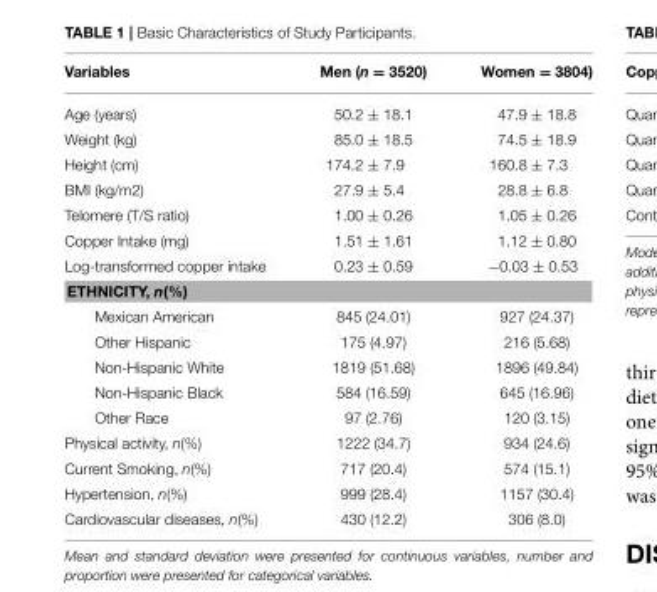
<table><thead><tr><td>Variables</td><td>Men (n = 3520)</td><td>Women = 3804)</td></tr></thead><tbody><tr><td>Age (years)</td><td>50.2 ± 18.1</td><td>47.9 ± 18.8</td></tr><tr><td>Weight (kg)</td><td>85.0 ± 18.5</td><td>74.5 ± 18.9</td></tr><tr><td>Height (cm)</td><td>174.2 ± 7.9</td><td>160.8 ± 7.3</td></tr><tr><td>BMI (kg/m2)</td><td>27.9 ± 5.4</td><td>28.8 ± 6.8</td></tr><tr><td>Telomere (T/S ratio)</td><td>1.00 ± 0.26</td><td>1.05 ± 0.26</td></tr><tr><td>Copper Intake (mg)</td><td>1.51 ± 1.61</td><td>1.12 ± 0.80</td></tr><tr><td>Log-transformed copper intake</td><td>0.23 ± 0.59</td><td>−0.03 ± 0.53</td></tr><tr><td colspan="3">ETHNICITY, n(%)</td></tr><tr><td>Mexican American</td><td>845 (24.01)</td><td>927 (24.37)</td></tr><tr><td>Other Hispanic</td><td>175 (4.97)</td><td>216 (5.68)</td></tr><tr><td>Non-Hispanic White</td><td>1819 (51.68)</td><td>1896 (49.84)</td></tr><tr><td>Non-Hispanic Black</td><td>584 (16.59)</td><td>645 (16.96)</td></tr><tr><td>Other Race</td><td>97 (2.76)</td><td>120 (3.15)</td></tr><tr><td>Physical activity, n(%)</td><td>1222 (34.7)</td><td>934 (24.6)</td></tr><tr><td>Current Smoking, n(%)</td><td>717 (20.4)</td><td>574 (15.1)</td></tr><tr><td>Hypertension, n(%)</td><td>999 (28.4)</td><td>1157 (30.4)</td></tr><tr><td>Cardiovascular diseases, n(%)</td><td>430 (12.2)</td><td>306 (8.0)</td></tr></tbody></table>